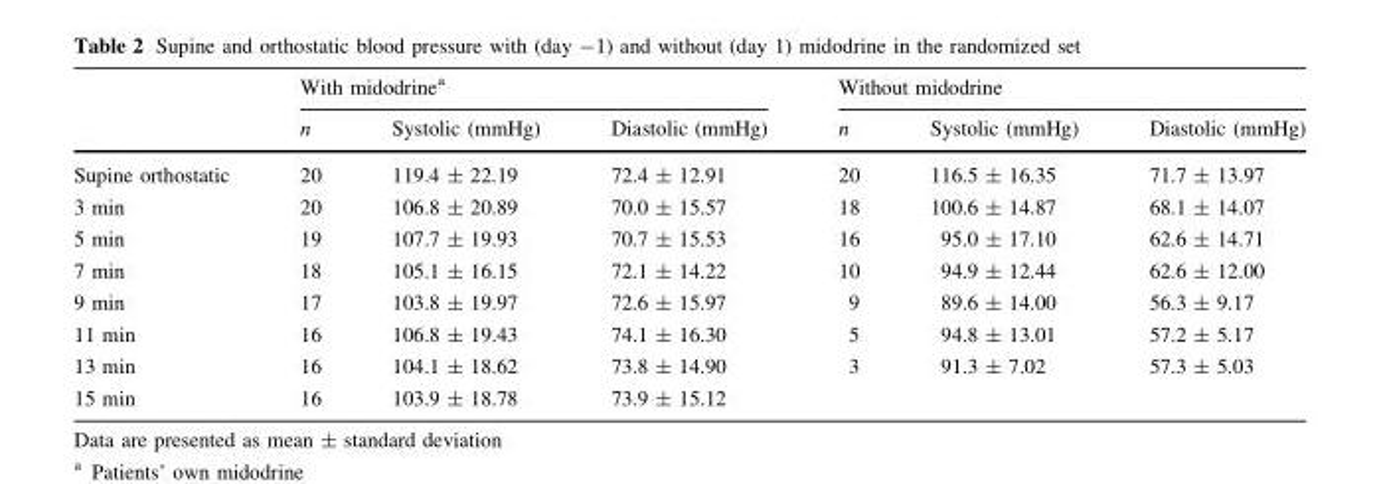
<table><thead><tr><td rowspan="2"></td><td colspan="3">With midodrine<sup>a</sup></td><td colspan="3">Without midodrine</td></tr><tr><td>n</td><td>Systolic (mmHg)</td><td>Diastolic (mmHg)</td><td>n</td><td>Systolic (mmHg)</td><td>Diastolic (mmHg)</td></tr></thead><tbody><tr><td>Supine orthostatic</td><td>20</td><td>119.4 ± 22.19</td><td>72.4 ± 12.91</td><td>20</td><td>116.5 ± 16.35</td><td>71.7 ± 13.97</td></tr><tr><td>3 min</td><td>20</td><td>106.8 ± 20.89</td><td>70.0 ± 15.57</td><td>18</td><td>100.6 ± 14.87</td><td>68.1 ± 14.07</td></tr><tr><td>5 min</td><td>19</td><td>107.7 ± 19.93</td><td>70.7 ± 15.53</td><td>16</td><td>95.0 ± 17.10</td><td>62.6 ± 14.71</td></tr><tr><td>7 min</td><td>18</td><td>105.1 ± 16.15</td><td>72.1 ± 14.22</td><td>10</td><td>94.9 ± 12.44</td><td>62.6 ± 12.00</td></tr><tr><td>9 min</td><td>17</td><td>103.8 ± 19.97</td><td>72.6 ± 15.97</td><td>9</td><td>89.6 ± 14.00</td><td>56.3 ± 9.17</td></tr><tr><td>11 min</td><td>16</td><td>106.8 ± 19.43</td><td>74.1 ± 16.30</td><td>5</td><td>94.8 ± 13.01</td><td>57.2 ± 5.17</td></tr><tr><td>13 min</td><td>16</td><td>104.1 ± 18.62</td><td>73.8 ± 14.90</td><td>3</td><td>91.3 ± 7.02</td><td>57.3 ± 5.03</td></tr><tr><td>15 min</td><td>16</td><td>103.9 ± 18.78</td><td>73.9 ± 15.12</td><td></td><td></td><td></td></tr></tbody></table>